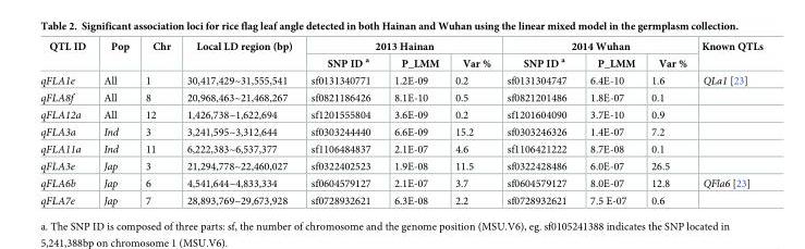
<table><thead><tr><td rowspan="2">QTL ID</td><td rowspan="2">Pop</td><td rowspan="2">Chr</td><td rowspan="2">Local LD region (bp)</td><td colspan="3">2013 Hainan</td><td colspan="3">2014 Wuhan</td><td rowspan="2">Known QTLs</td></tr><tr><td>SNP ID <sup>a</sup></td><td>P_LMM</td><td>Var %</td><td>SNP ID <sup>a</sup></td><td>P_LMM</td><td>Var %</td></tr></thead><tbody><tr><td>qFLA1e</td><td>All</td><td>1</td><td>30,417,429~31,555,541</td><td>sf0131340771</td><td>1.2E-09</td><td>0.2</td><td>sf0131304747</td><td>6.4E-10</td><td>1.6</td><td>QLa1 [23]</td></tr><tr><td>qFLA8f</td><td>All</td><td>8</td><td>20,968,463~21,468,267</td><td>sf0821186426</td><td>8.1E-10</td><td>0.5</td><td>sf0821201486</td><td>1.8E-07</td><td>0.1</td><td></td></tr><tr><td>qFLA12a</td><td>All</td><td>12</td><td>1,426,738~1,622,694</td><td>sf1201555804</td><td>3.6E-09</td><td>0.2</td><td>sf1201604090</td><td>3.7E-10</td><td>0.9</td><td></td></tr><tr><td>qFLA3a</td><td>Ind</td><td>3</td><td>3,241,595~3,312,644</td><td>sf0303244440</td><td>6.6E-09</td><td>15.2</td><td>sf0303246326</td><td>1.4E-07</td><td>7.2</td><td></td></tr><tr><td>qFLA11a</td><td>Ind</td><td>11</td><td>6,222,383~6,537,377</td><td>sf1106484837</td><td>2.1E-07</td><td>4.6</td><td>sf1106421222</td><td>8.7E-08</td><td>0.1</td><td></td></tr><tr><td>qFLA3e</td><td>Jap</td><td>3</td><td>21,294,778~22,460,027</td><td>sf0322402523</td><td>1.9E-08</td><td>11.5</td><td>sf0322428486</td><td>6.0E-07</td><td>26.5</td><td></td></tr><tr><td>qFLA6b</td><td>Jap</td><td>6</td><td>4,541,644~4,833,334</td><td>sf0604579127</td><td>2.1E-07</td><td>3.7</td><td>sf0604579127</td><td>8.0E-07</td><td>12.8</td><td>QFla6 [23]</td></tr><tr><td>qFLA7e</td><td>Jap</td><td>7</td><td>28,893,769~29,673,928</td><td>sf0728932621</td><td>6.3E-08</td><td>2.2</td><td>sf0728932621</td><td>7.5 E-07</td><td>0.6</td><td></td></tr></tbody></table>